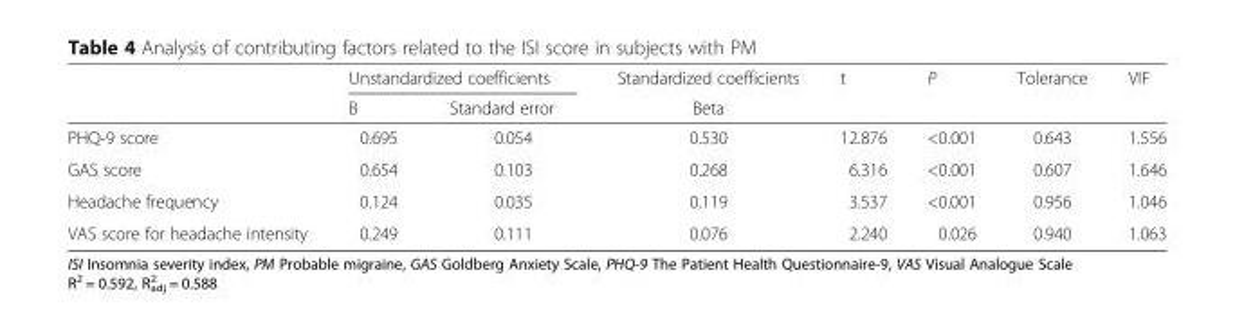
<table><thead><tr><td rowspan="2"></td><td colspan="2">Unstandardized coefficients</td><td rowspan="2">Standardized coefficients Beta</td><td rowspan="2">t</td><td rowspan="2">P</td><td rowspan="2">Tolerance</td><td rowspan="2">VIF</td></tr><tr><td>B</td><td>Standard error</td></tr></thead><tbody><tr><td>PHQ-9 score</td><td>0.695</td><td>0.054</td><td>0.530</td><td>12.876</td><td>&lt;0.001</td><td>0.643</td><td>1.556</td></tr><tr><td>GAS score</td><td>0.654</td><td>0.103</td><td>0.268</td><td>6.316</td><td>&lt;0.001</td><td>0.607</td><td>1.646</td></tr><tr><td>Headache frequency</td><td>0.124</td><td>0.035</td><td>0.119</td><td>3.537</td><td>&lt;0.001</td><td>0.956</td><td>1.046</td></tr><tr><td>VAS score for headache intensity</td><td>0.249</td><td>0.111</td><td>0.076</td><td>2.240</td><td>0.026</td><td>0.940</td><td>1.063</td></tr></tbody></table>